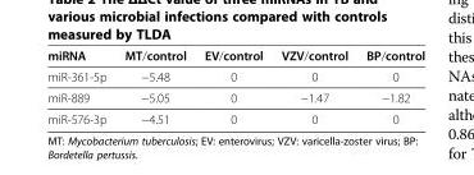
<table><thead><tr><td>miRNA</td><td>MT/control</td><td>EV/control</td><td>VZV/control</td><td>BP/control</td></tr></thead><tbody><tr><td>miR-361-5p</td><td>−5.48</td><td>0</td><td>0</td><td>0</td></tr><tr><td>miR-889</td><td>−5.05</td><td>0</td><td>−1.47</td><td>−1.82</td></tr><tr><td>miR-576-3p</td><td>−4.51</td><td>0</td><td>0</td><td>0</td></tr></tbody></table>